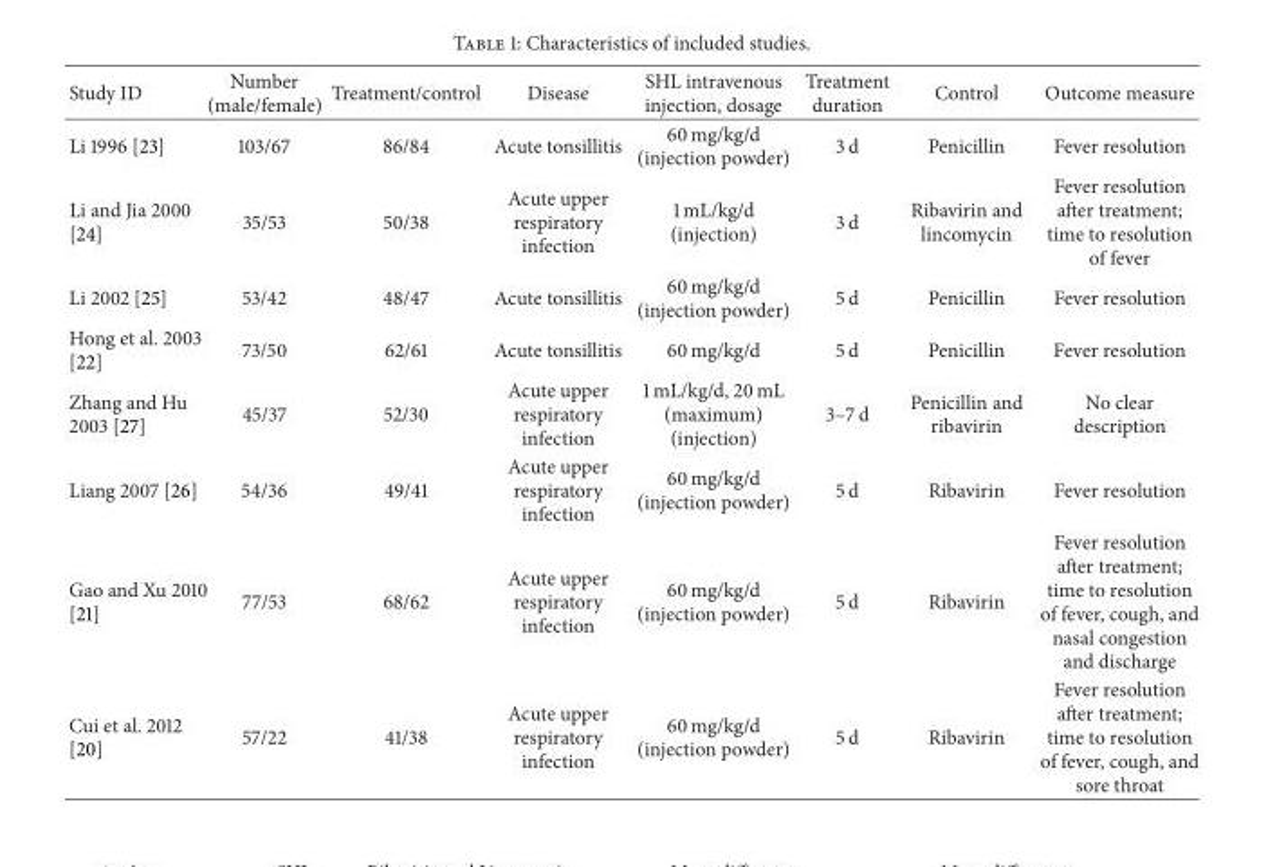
<table><thead><tr><td>Study ID</td><td>Number (male/female)</td><td>Treatment/control</td><td>Disease</td><td>SHL intravenous injection, dosage</td><td>Treatment duration</td><td>Control</td><td>Outcome measure</td></tr></thead><tbody><tr><td>Li 1996 [23]</td><td>103/67</td><td>86/84</td><td>Acute tonsillitis</td><td>60 mg/kg/d (injection powder)</td><td>3 d</td><td>Penicillin</td><td>Fever resolution</td></tr><tr><td>Li and Jia 2000 [24]</td><td>35/53</td><td>50/38</td><td>Acute upper respiratory infection</td><td>1 mL/kg/d (injection)</td><td>3 d</td><td>Ribavirin and lincomycin</td><td>Fever resolution after treatment; time to resolution of fever</td></tr><tr><td>Li 2002 [25]</td><td>53/42</td><td>48/47</td><td>Acute tonsillitis</td><td>60 mg/kg/d (injection powder)</td><td>5 d</td><td>Penicillin</td><td>Fever resolution</td></tr><tr><td>Hong et al. 2003 [22]</td><td>73/50</td><td>62/61</td><td>Acute tonsillitis</td><td>60 mg/kg/d</td><td>5 d</td><td>Penicillin</td><td>Fever resolution</td></tr><tr><td>Zhang and Hu 2003 [27]</td><td>45/37</td><td>52/30</td><td>Acute upper respiratory infection</td><td>1 mL/kg/d, 20 mL (maximum) (injection)</td><td>3–7 d</td><td>Penicillin and ribavirin</td><td>No clear description</td></tr><tr><td>Liang 2007 [26]</td><td>54/36</td><td>49/41</td><td>Acute upper respiratory infection</td><td>60 mg/kg/d (injection powder)</td><td>5 d</td><td>Ribavirin</td><td>Fever resolution</td></tr><tr><td>Gao and Xu 2010 [21]</td><td>77/53</td><td>68/62</td><td>Acute upper respiratory infection</td><td>60 mg/kg/d (injection powder)</td><td>5 d</td><td>Ribavirin</td><td>Fever resolution after treatment; time to resolution of fever, cough, and nasal congestion and discharge</td></tr><tr><td>Cui et al. 2012 [20]</td><td>57/22</td><td>41/38</td><td>Acute upper respiratory infection</td><td>60 mg/kg/d (injection powder)</td><td>5 d</td><td>Ribavirin</td><td>Fever resolution after treatment; time to resolution of fever, cough, and sore throat</td></tr></tbody></table>